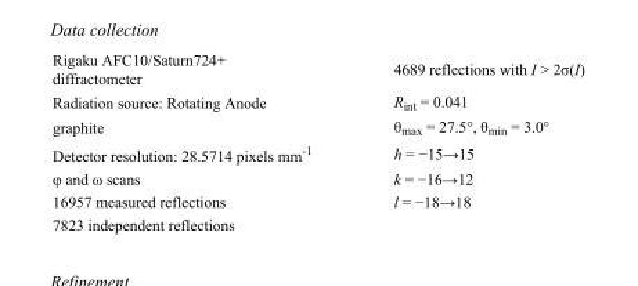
<table><tbody><tr><td>Rigaku AFC10/Saturn724+ diffractometer</td><td>4689 reflections with I &gt; 2σ(I)</td></tr><tr><td>Radiation source: Rotating Anode</td><td>R<sub>int</sub> = 0.041</td></tr><tr><td>graphite</td><td>θ<sub>max</sub> = 27.5°, θ<sub>min</sub> = 3.0°</td></tr><tr><td>Detector resolution: 28.5714 pixels mm<sup>-1</sup></td><td>h = −15→15</td></tr><tr><td>φ and ω scans</td><td>k = −16→12</td></tr><tr><td>16957 measured reflections</td><td>l = −18→18</td></tr><tr><td>7823 independent reflections</td><td></td></tr></tbody></table>